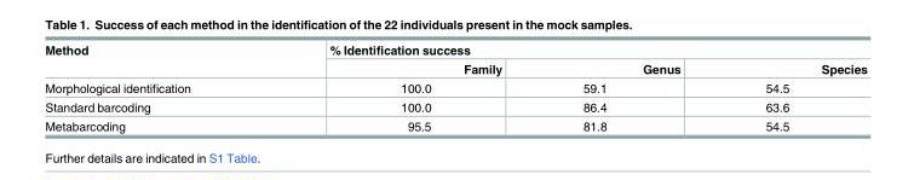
<table><thead><tr><td rowspan="2">Method</td><td colspan="3">% Identification success</td></tr><tr><td>Family</td><td>Genus</td><td>Species</td></tr></thead><tbody><tr><td>Morphological identification</td><td>100.0</td><td>59.1</td><td>54.5</td></tr><tr><td>Standard barcoding</td><td>100.0</td><td>86.4</td><td>63.6</td></tr><tr><td>Metabarcoding</td><td>95.5</td><td>81.8</td><td>54.5</td></tr></tbody></table>